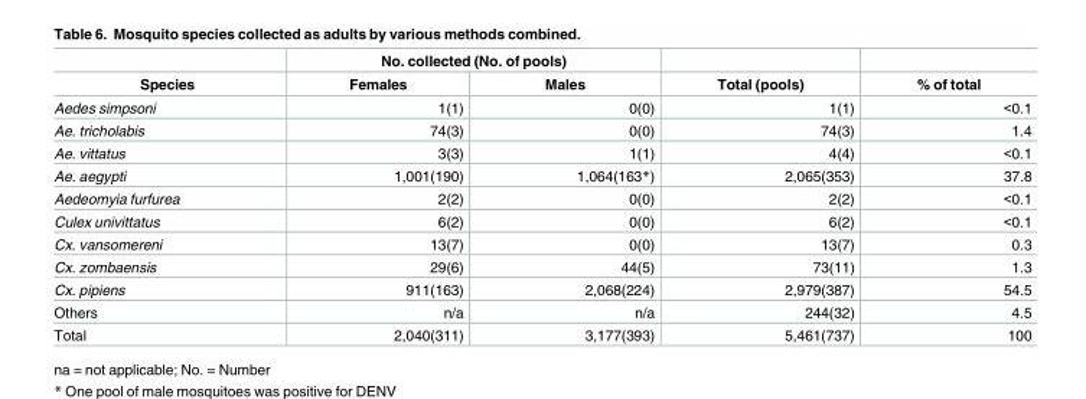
<table><thead><tr><td rowspan="2">Species</td><td colspan="2">No. collected (No. of pools)</td><td rowspan="2">Total (pools)</td><td rowspan="2">% of total</td></tr><tr><td>Females</td><td>Males</td></tr></thead><tbody><tr><td>Aedes simpsoni</td><td>1(1)</td><td>0(0)</td><td>1(1)</td><td>&lt;0.1</td></tr><tr><td>Ae. tricholabis</td><td>74(3)</td><td>0(0)</td><td>74(3)</td><td>1.4</td></tr><tr><td>Ae. vittatus</td><td>3(3)</td><td>1(1)</td><td>4(4)</td><td>&lt;0.1</td></tr><tr><td>Ae. aegypti</td><td>1,001(190)</td><td>1,064(163*)</td><td>2,065(353)</td><td>37.8</td></tr><tr><td>Aedeomyia furfurea</td><td>2(2)</td><td>0(0)</td><td>2(2)</td><td>&lt;0.1</td></tr><tr><td>Culex univittatus</td><td>6(2)</td><td>0(0)</td><td>6(2)</td><td>&lt;0.1</td></tr><tr><td>Cx. vansomereni</td><td>13(7)</td><td>0(0)</td><td>13(7)</td><td>0.3</td></tr><tr><td>Cx. zombaensis</td><td>29(6)</td><td>44(5)</td><td>73(11)</td><td>1.3</td></tr><tr><td>Cx. pipiens</td><td>911(163)</td><td>2,068(224)</td><td>2,979(387)</td><td>54.5</td></tr><tr><td>Others</td><td>n/a</td><td>n/a</td><td>244(32)</td><td>4.5</td></tr><tr><td>Total</td><td>2,040(311)</td><td>3,177(393)</td><td>5,461(737)</td><td>100</td></tr></tbody></table>